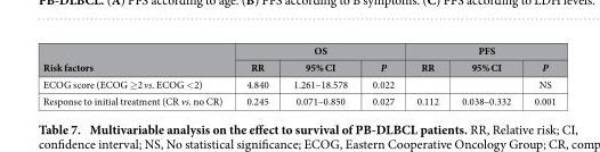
<table><thead><tr><td rowspan="2">Risk factors</td><td colspan="3">OS</td><td colspan="3">PFS</td></tr><tr><td>RR</td><td>95% CI</td><td>P</td><td>RR</td><td>95% CI</td><td>P</td></tr></thead><tbody><tr><td>ECOG score (ECOG ≥ 2 vs. ECOG &lt; 2)</td><td>4.840</td><td>1.261–18.578</td><td>0.022</td><td></td><td></td><td>NS</td></tr><tr><td>Response to initial treatment (CR vs. no CR)</td><td>0.245</td><td>0.071–0.850</td><td>0.027</td><td>0.112</td><td>0.038–0.332</td><td>0.001</td></tr></tbody></table>